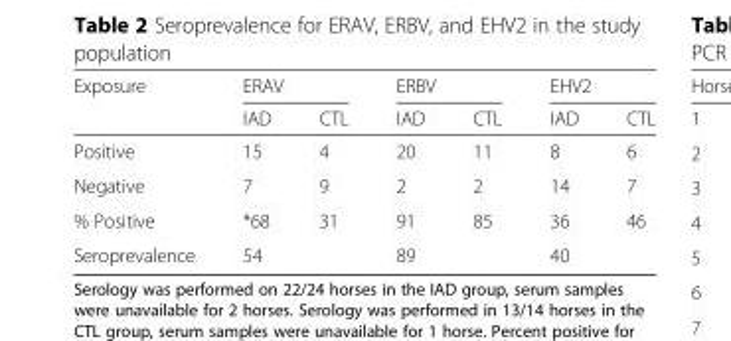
<table><thead><tr><td rowspan="2">Exposure</td><td colspan="2">ERAV</td><td colspan="2">ERBV</td><td colspan="2">EHV2</td></tr><tr><td>IAD</td><td>CTL</td><td>IAD</td><td>CTL</td><td>IAD</td><td>CTL</td></tr></thead><tbody><tr><td>Positive</td><td>15</td><td>4</td><td>20</td><td>11</td><td>8</td><td>6</td></tr><tr><td>Negative</td><td>7</td><td>9</td><td>2</td><td>2</td><td>14</td><td>7</td></tr><tr><td>% Positive</td><td>*68</td><td>31</td><td>91</td><td>85</td><td>36</td><td>46</td></tr><tr><td>Seroprevalence</td><td colspan="2">54</td><td colspan="2">89</td><td colspan="2">40</td></tr></tbody></table>